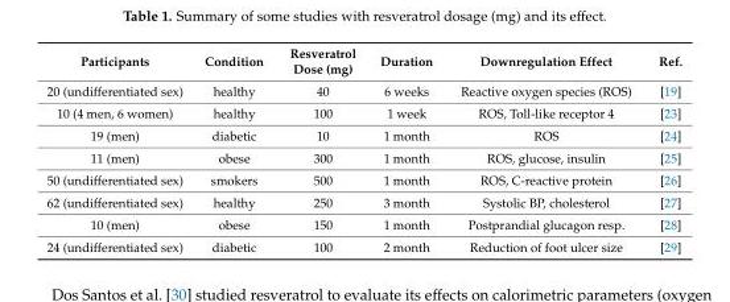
<table><thead><tr><td>Participants</td><td>Condition</td><td>Resveratrol Dose (mg)</td><td>Duration</td><td>Downregulation Effect</td><td>Ref.</td></tr></thead><tbody><tr><td>20 (undifferentiated sex)</td><td>healthy</td><td>40</td><td>6 weeks</td><td>Reactive oxygen species (ROS)</td><td>[19]</td></tr><tr><td>10 (4 men, 6 women)</td><td>healthy</td><td>100</td><td>1 week</td><td>ROS, Toll-like receptor 4</td><td>[23]</td></tr><tr><td>19 (men)</td><td>diabetic</td><td>10</td><td>1 month</td><td>ROS</td><td>[24]</td></tr><tr><td>11 (men)</td><td>obese</td><td>300</td><td>1 month</td><td>ROS, glucose, insulin</td><td>[25]</td></tr><tr><td>50 (undifferentiated sex)</td><td>smokers</td><td>500</td><td>1 month</td><td>ROS, C-reactive protein</td><td>[26]</td></tr><tr><td>62 (undifferentiated sex)</td><td>healthy</td><td>250</td><td>3 month</td><td>Systolic BP, cholesterol</td><td>[27]</td></tr><tr><td>10 (men)</td><td>obese</td><td>150</td><td>1 month</td><td>Postprandial glucagon resp.</td><td>[28]</td></tr><tr><td>24 (undifferentiated sex)</td><td>diabetic</td><td>100</td><td>2 month</td><td>Reduction of foot ulcer size</td><td>[29]</td></tr></tbody></table>